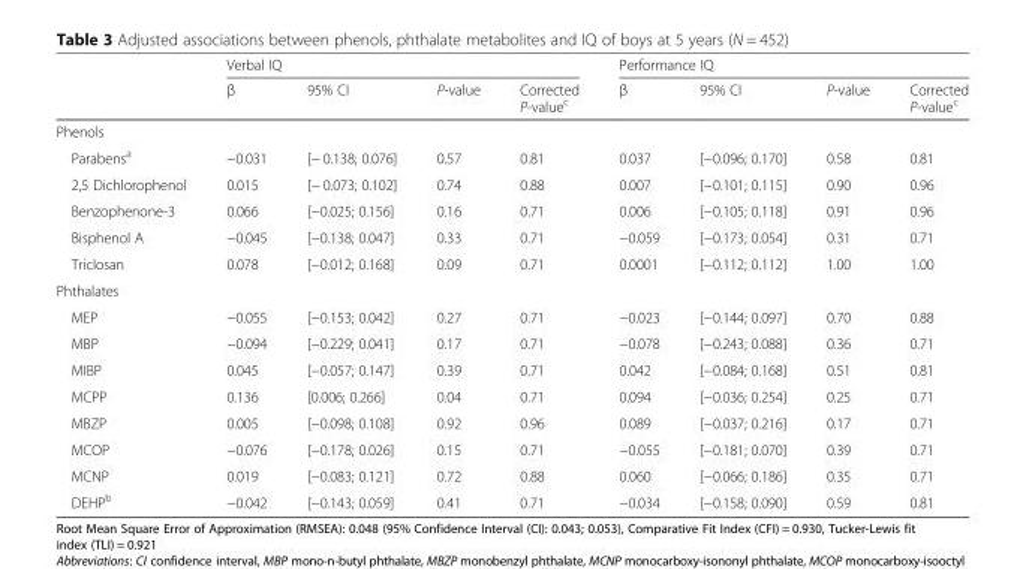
<table><thead><tr><td rowspan="2"></td><td colspan="4">Verbal IQ</td><td colspan="4">Performance IQ</td></tr><tr><td>β</td><td>95% CI</td><td>P-value</td><td>Corrected P-value<sup>c</sup></td><td>β</td><td>95% CI</td><td>P-value</td><td>Corrected P-value<sup>c</sup></td></tr></thead><tbody><tr><td colspan="9">Phenols</td></tr><tr><td>Parabens<sup>a</sup></td><td>−0.031</td><td>[− 0.138; 0.076]</td><td>0.57</td><td>0.81</td><td>0.037</td><td>[−0.096; 0.170]</td><td>0.58</td><td>0.81</td></tr><tr><td>2,5 Dichlorophenol</td><td>0.015</td><td>[− 0.073; 0.102]</td><td>0.74</td><td>0.88</td><td>0.007</td><td>[−0.101; 0.115]</td><td>0.90</td><td>0.96</td></tr><tr><td>Benzophenone-3</td><td>0.066</td><td>[−0.025; 0.156]</td><td>0.16</td><td>0.71</td><td>0.006</td><td>[−0.105; 0.118]</td><td>0.91</td><td>0.96</td></tr><tr><td>Bisphenol A</td><td>−0.045</td><td>[−0.138; 0.047]</td><td>0.33</td><td>0.71</td><td>−0.059</td><td>[−0.173; 0.054]</td><td>0.31</td><td>0.71</td></tr><tr><td>Triclosan</td><td>0.078</td><td>[−0.012; 0.168]</td><td>0.09</td><td>0.71</td><td>0.0001</td><td>[−0.112; 0.112]</td><td>1.00</td><td>1.00</td></tr><tr><td colspan="9">Phthalates</td></tr><tr><td>MEP</td><td>−0.055</td><td>[−0.153; 0.042]</td><td>0.27</td><td>0.71</td><td>−0.023</td><td>[−0.144; 0.097]</td><td>0.70</td><td>0.88</td></tr><tr><td>MBP</td><td>−0.094</td><td>[−0.229; 0.041]</td><td>0.17</td><td>0.71</td><td>−0.078</td><td>[−0.243; 0.088]</td><td>0.36</td><td>0.71</td></tr><tr><td>MIBP</td><td>0.045</td><td>[−0.057; 0.147]</td><td>0.39</td><td>0.71</td><td>0.042</td><td>[−0.084; 0.168]</td><td>0.51</td><td>0.81</td></tr><tr><td>MCPP</td><td>0.136</td><td>[0.006; 0.266]</td><td>0.04</td><td>0.71</td><td>0.094</td><td>[−0.036; 0.254]</td><td>0.25</td><td>0.71</td></tr><tr><td>MBZP</td><td>0.005</td><td>[−0.098; 0.108]</td><td>0.92</td><td>0.96</td><td>0.089</td><td>[−0.037; 0.216]</td><td>0.17</td><td>0.71</td></tr><tr><td>MCOP</td><td>−0.076</td><td>[−0.178; 0.026]</td><td>0.15</td><td>0.71</td><td>−0.055</td><td>[−0.181; 0.070]</td><td>0.39</td><td>0.71</td></tr><tr><td>MCNP</td><td>0.019</td><td>[−0.083; 0.121]</td><td>0.72</td><td>0.88</td><td>0.060</td><td>[−0.066; 0.186]</td><td>0.35</td><td>0.71</td></tr><tr><td>DEHP<sup>b</sup></td><td>−0.042</td><td>[−0.143; 0.059]</td><td>0.41</td><td>0.71</td><td>−0.034</td><td>[−0.158; 0.090]</td><td>0.59</td><td>0.81</td></tr></tbody></table>